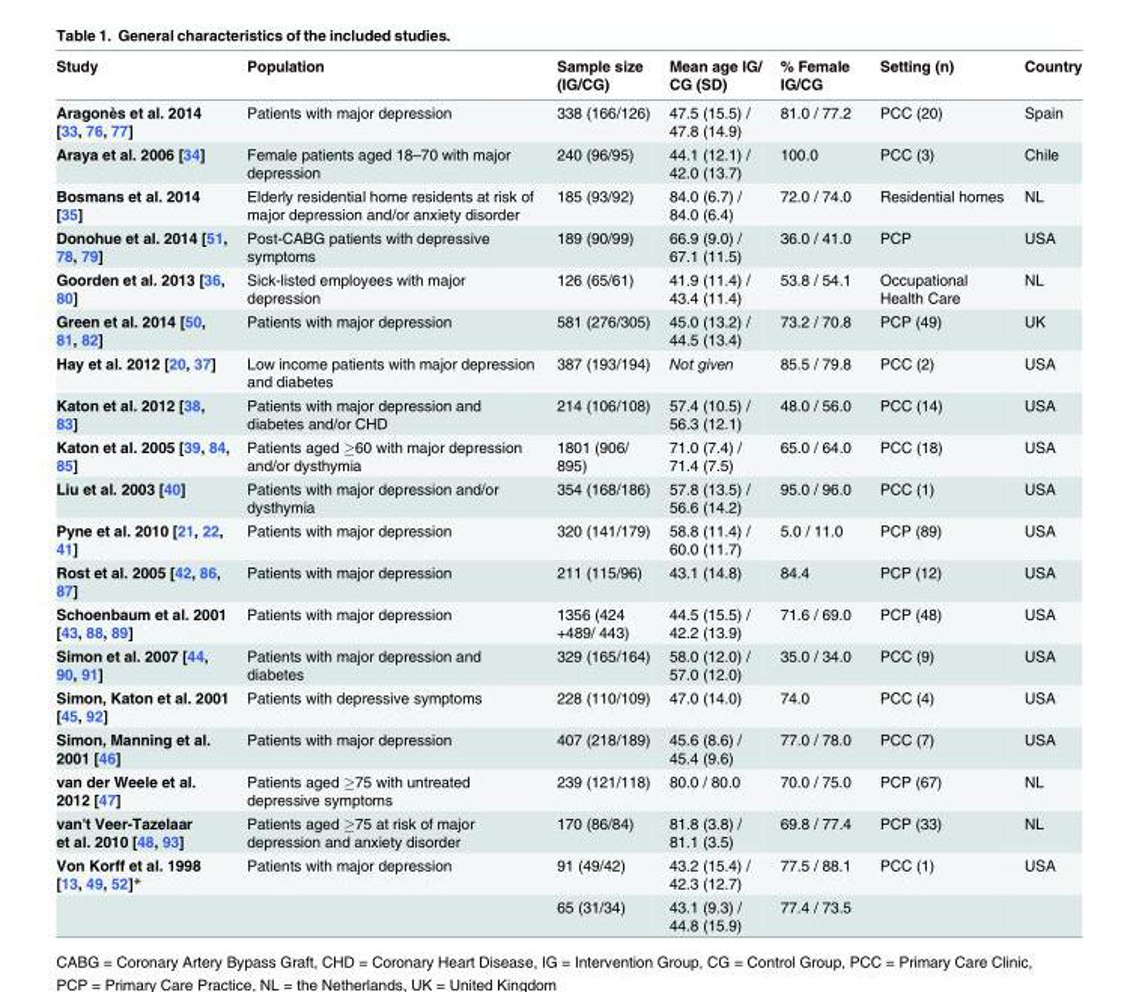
<table><thead><tr><td>Study</td><td>Population</td><td>Sample size (IG/CG)</td><td>Mean age IG/ CG (SD)</td><td>% Female IG/CG</td><td>Setting (n)</td><td>Country</td></tr></thead><tbody><tr><td>Aragonès et al. 2014 [33, 76, 77]</td><td>Patients with major depression</td><td>338 (166/126)</td><td>47.5 (15.5) / 47.8 (14.9)</td><td>81.0 / 77.2</td><td>PCC (20)</td><td>Spain</td></tr><tr><td>Araya et al. 2006 [34]</td><td>Female patients aged 18–70 with major depression</td><td>240 (96/95)</td><td>44.1 (12.1) / 42.0 (13.7)</td><td>100.0</td><td>PCC (3)</td><td>Chile</td></tr><tr><td>Bosmans et al. 2014 [35]</td><td>Elderly residential home residents at risk of major depression and/or anxiety disorder</td><td>185 (93/92)</td><td>84.0 (6.7) / 84.0 (6.4)</td><td>72.0 / 74.0</td><td>Residential homes</td><td>NL</td></tr><tr><td>Donohue et al. 2014 [51, 78, 79]</td><td>Post-CABG patients with depressive symptoms</td><td>189 (90/99)</td><td>66.9 (9.0) / 67.1 (11.5)</td><td>36.0 / 41.0</td><td>PCP</td><td>USA</td></tr><tr><td>Goorden et al. 2013 [36, 80]</td><td>Sick-listed employees with major depression</td><td>126 (65/61)</td><td>41.9 (11.4) / 43.4 (11.4)</td><td>53.8 / 54.1</td><td>Occupational Health Care</td><td>NL</td></tr><tr><td>Green et al. 2014 [50, 81, 82]</td><td>Patients with major depression</td><td>581 (276/305)</td><td>45.0 (13.2) / 44.5 (13.4)</td><td>73.2 / 70.8</td><td>PCP (49)</td><td>UK</td></tr><tr><td>Hay et al. 2012 [20, 37]</td><td>Low income patients with major depression and diabetes</td><td>387 (193/194)</td><td>Not given</td><td>85.5 / 79.8</td><td>PCC (2)</td><td>USA</td></tr><tr><td>Katon et al. 2012 [38, 83]</td><td>Patients with major depression and diabetes and/or CHD</td><td>214 (106/108)</td><td>57.4 (10.5) / 56.3 (12.1)</td><td>48.0 / 56.0</td><td>PCC (14)</td><td>USA</td></tr><tr><td>Katon et al. 2005 [39, 84, 85]</td><td>Patients aged ≥60 with major depression and/or dysthymia</td><td>1801 (906/ 895)</td><td>71.0 (7.4) / 71.4 (7.5)</td><td>65.0 / 64.0</td><td>PCC (18)</td><td>USA</td></tr><tr><td>Liu et al. 2003 [40]</td><td>Patients with major depression and/or dysthymia</td><td>354 (168/186)</td><td>57.8 (13.5) / 56.6 (14.2)</td><td>95.0 / 96.0</td><td>PCC (1)</td><td>USA</td></tr><tr><td>Pyne et al. 2010 [21, 22, 41]</td><td>Patients with major depression</td><td>320 (141/179)</td><td>58.8 (11.4) / 60.0 (11.7)</td><td>5.0 / 11.0</td><td>PCP (89)</td><td>USA</td></tr><tr><td>Rost et al. 2005 [42, 86, 87]</td><td>Patients with major depression</td><td>211 (115/96)</td><td>43.1 (14.8)</td><td>84.4</td><td>PCP (12)</td><td>USA</td></tr><tr><td>Schoenbaum et al. 2001 [43, 88, 89]</td><td>Patients with major depression</td><td>1356 (424 +489/ 443)</td><td>44.5 (15.5) / 42.2 (13.9)</td><td>71.6 / 69.0</td><td>PCP (48)</td><td>USA</td></tr><tr><td>Simon et al. 2007 [44, 90, 91]</td><td>Patients with major depression and diabetes</td><td>329 (165/164)</td><td>58.0 (12.0) / 57.0 (12.0)</td><td>35.0 / 34.0</td><td>PCC (9)</td><td>USA</td></tr><tr><td>Simon, Katon et al. 2001 [45, 92]</td><td>Patients with depressive symptoms</td><td>228 (110/109)</td><td>47.0 (14.0)</td><td>74.0</td><td>PCC (4)</td><td>USA</td></tr><tr><td>Simon, Manning et al. 2001 [46]</td><td>Patients with major depression</td><td>407 (218/189)</td><td>45.6 (8.6) / 45.4 (9.6)</td><td>77.0 / 78.0</td><td>PCC (7)</td><td>USA</td></tr><tr><td>van der Weele et al. 2012 [47]</td><td>Patients aged ≥75 with untreated depressive symptoms</td><td>239 (121/118)</td><td>80.0 / 80.0</td><td>70.0 / 75.0</td><td>PCP (67)</td><td>NL</td></tr><tr><td>van&#x27;t Veer-Tazelaar et al. 2010 [48, 93]</td><td>Patients aged ≥75 at risk of major depression and anxiety disorder</td><td>170 (86/84)</td><td>81.8 (3.8) / 81.1 (3.5)</td><td>69.8 / 77.4</td><td>PCP (33)</td><td>NL</td></tr><tr><td rowspan="2">Von Korff et al. 1998 [13, 49, 52]*</td><td>Patients with major depression</td><td>91 (49/42)</td><td>43.2 (15.4) / 42.3 (12.7)</td><td>77.5 / 88.1</td><td>PCC (1)</td><td>USA</td></tr><tr><td></td><td>65 (31/34)</td><td>43.1 (9.3) / 44.8 (15.9)</td><td>77.4 / 73.5</td><td></td><td></td></tr></tbody></table>